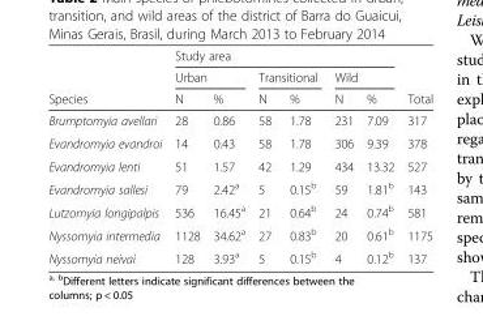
<table><thead><tr><td rowspan="3">Species</td><td colspan="6">Study area</td><td rowspan="3">Total</td></tr><tr><td colspan="2">Urban</td><td colspan="2">Transitional</td><td colspan="2">Wild</td></tr><tr><td>N</td><td>%</td><td>N</td><td>%</td><td>N</td><td>%</td></tr></thead><tbody><tr><td>Brumptomyia avellari</td><td>28</td><td>0.86</td><td>58</td><td>1.78</td><td>231</td><td>7.09</td><td>317</td></tr><tr><td>Evandromyia evandroi</td><td>14</td><td>0.43</td><td>58</td><td>1.78</td><td>306</td><td>9.39</td><td>378</td></tr><tr><td>Evandromyia lenti</td><td>51</td><td>1.57</td><td>42</td><td>1.29</td><td>434</td><td>13.32</td><td>527</td></tr><tr><td>Evandromyia sallesi</td><td>79</td><td>2.42<sup>a</sup></td><td>5</td><td>0.15<sup>b</sup></td><td>59</td><td>1.81<sup>b</sup></td><td>143</td></tr><tr><td>Lutzomyia longipalpis</td><td>536</td><td>16.45<sup>a</sup></td><td>21</td><td>0.64<sup>b</sup></td><td>24</td><td>0.74<sup>b</sup></td><td>581</td></tr><tr><td>Nyssomyia intermedia</td><td>1128</td><td>34.62<sup>a</sup></td><td>27</td><td>0.83<sup>b</sup></td><td>20</td><td>0.61<sup>b</sup></td><td>1175</td></tr><tr><td>Nyssomyia neivai</td><td>128</td><td>3.93<sup>a</sup></td><td>5</td><td>0.15<sup>b</sup></td><td>4</td><td>0.12<sup>b</sup></td><td>137</td></tr></tbody></table>